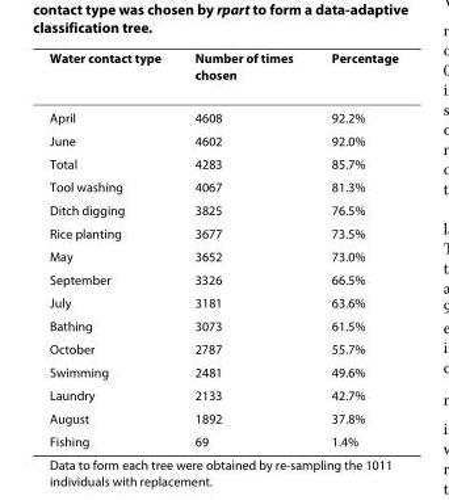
<table><thead><tr><td>Water contact type</td><td>Number of times chosen</td><td>Percentage</td></tr></thead><tbody><tr><td>April</td><td>4608</td><td>92.2%</td></tr><tr><td>June</td><td>4602</td><td>92.0%</td></tr><tr><td>Total</td><td>4283</td><td>85.7%</td></tr><tr><td>Tool washing</td><td>4067</td><td>81.3%</td></tr><tr><td>Ditch digging</td><td>3825</td><td>76.5%</td></tr><tr><td>Rice planting</td><td>3677</td><td>73.5%</td></tr><tr><td>May</td><td>3652</td><td>73.0%</td></tr><tr><td>September</td><td>3326</td><td>66.5%</td></tr><tr><td>July</td><td>3181</td><td>63.6%</td></tr><tr><td>Bathing</td><td>3073</td><td>61.5%</td></tr><tr><td>October</td><td>2787</td><td>55.7%</td></tr><tr><td>Swimming</td><td>2481</td><td>49.6%</td></tr><tr><td>Laundry</td><td>2133</td><td>42.7%</td></tr><tr><td>August</td><td>1892</td><td>37.8%</td></tr><tr><td>Fishing</td><td>69</td><td>1.4%</td></tr></tbody></table>